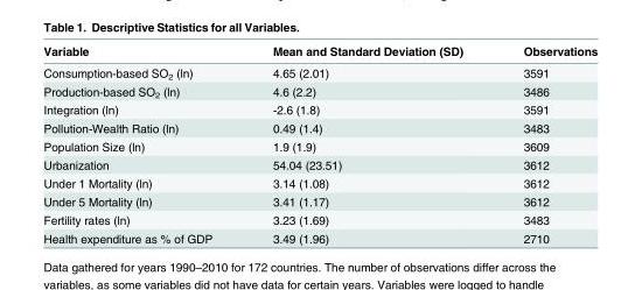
<table><thead><tr><td>Variable</td><td>Mean and Standard Deviation (SD)</td><td>Observations</td></tr></thead><tbody><tr><td>Consumption-based SO<sub>2</sub> (ln)</td><td>4.65 (2.01)</td><td>3591</td></tr><tr><td>Production-based SO<sub>2</sub> (ln)</td><td>4.6 (2.2)</td><td>3486</td></tr><tr><td>Integration (ln)</td><td>-2.6 (1.8)</td><td>3591</td></tr><tr><td>Pollution-Wealth Ratio (ln)</td><td>0.49 (1.4)</td><td>3483</td></tr><tr><td>Population Size (ln)</td><td>1.9 (1.9)</td><td>3609</td></tr><tr><td>Urbanization</td><td>54.04 (23.51)</td><td>3612</td></tr><tr><td>Under 1 Mortality (ln)</td><td>3.14 (1.08)</td><td>3612</td></tr><tr><td>Under 5 Mortality (ln)</td><td>3.41 (1.17)</td><td>3612</td></tr><tr><td>Fertility rates (ln)</td><td>3.23 (1.69)</td><td>3483</td></tr><tr><td>Health expenditure as % of GDP</td><td>3.49 (1.96)</td><td>2710</td></tr></tbody></table>